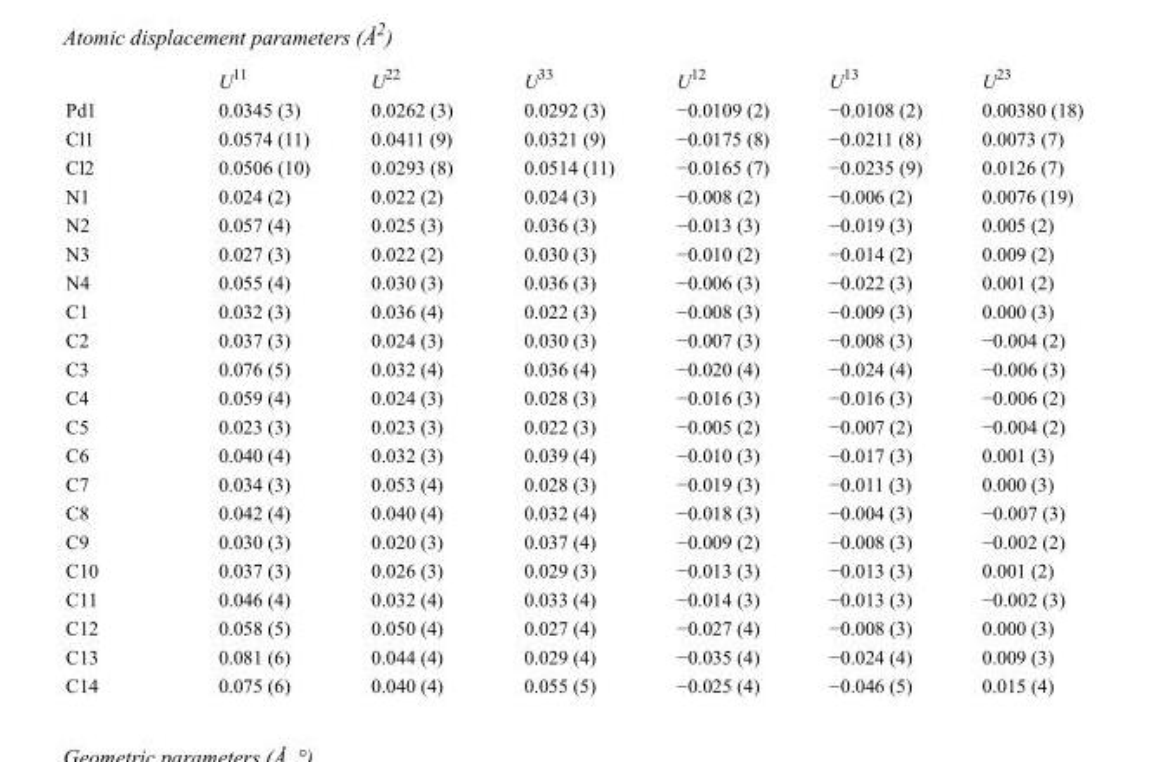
<table><thead><tr><td></td><td>U<sup>11</sup></td><td>U<sup>22</sup></td><td>U<sup>33</sup></td><td>U<sup>12</sup></td><td>U<sup>13</sup></td><td>U<sup>23</sup></td></tr></thead><tbody><tr><td>Pd1</td><td>0.0345 (3)</td><td>0.0262 (3)</td><td>0.0292 (3)</td><td>−0.0109 (2)</td><td>−0.0108 (2)</td><td>0.00380 (18)</td></tr><tr><td>Cl1</td><td>0.0574 (11)</td><td>0.0411 (9)</td><td>0.0321 (9)</td><td>−0.0175 (8)</td><td>−0.0211 (8)</td><td>0.0073 (7)</td></tr><tr><td>Cl2</td><td>0.0506 (10)</td><td>0.0293 (8)</td><td>0.0514 (11)</td><td>−0.0165 (7)</td><td>−0.0235 (9)</td><td>0.0126 (7)</td></tr><tr><td>N1</td><td>0.024 (2)</td><td>0.022 (2)</td><td>0.024 (3)</td><td>−0.008 (2)</td><td>−0.006 (2)</td><td>0.0076 (19)</td></tr><tr><td>N2</td><td>0.057 (4)</td><td>0.025 (3)</td><td>0.036 (3)</td><td>−0.013 (3)</td><td>−0.019 (3)</td><td>0.005 (2)</td></tr><tr><td>N3</td><td>0.027 (3)</td><td>0.022 (2)</td><td>0.030 (3)</td><td>−0.010 (2)</td><td>−0.014 (2)</td><td>0.009 (2)</td></tr><tr><td>N4</td><td>0.055 (4)</td><td>0.030 (3)</td><td>0.036 (3)</td><td>−0.006 (3)</td><td>−0.022 (3)</td><td>0.001 (2)</td></tr><tr><td>C1</td><td>0.032 (3)</td><td>0.036 (4)</td><td>0.022 (3)</td><td>−0.008 (3)</td><td>−0.009 (3)</td><td>0.000 (3)</td></tr><tr><td>C2</td><td>0.037 (3)</td><td>0.024 (3)</td><td>0.030 (3)</td><td>−0.007 (3)</td><td>−0.008 (3)</td><td>−0.004 (2)</td></tr><tr><td>C3</td><td>0.076 (5)</td><td>0.032 (4)</td><td>0.036 (4)</td><td>−0.020 (4)</td><td>−0.024 (4)</td><td>−0.006 (3)</td></tr><tr><td>C4</td><td>0.059 (4)</td><td>0.024 (3)</td><td>0.028 (3)</td><td>−0.016 (3)</td><td>−0.016 (3)</td><td>−0.006 (2)</td></tr><tr><td>C5</td><td>0.023 (3)</td><td>0.023 (3)</td><td>0.022 (3)</td><td>−0.005 (2)</td><td>−0.007 (2)</td><td>−0.004 (2)</td></tr><tr><td>C6</td><td>0.040 (4)</td><td>0.032 (3)</td><td>0.039 (4)</td><td>−0.010 (3)</td><td>−0.017 (3)</td><td>0.001 (3)</td></tr><tr><td>C7</td><td>0.034 (3)</td><td>0.053 (4)</td><td>0.028 (3)</td><td>−0.019 (3)</td><td>−0.011 (3)</td><td>0.000 (3)</td></tr><tr><td>C8</td><td>0.042 (4)</td><td>0.040 (4)</td><td>0.032 (4)</td><td>−0.018 (3)</td><td>−0.004 (3)</td><td>−0.007 (3)</td></tr><tr><td>C9</td><td>0.030 (3)</td><td>0.020 (3)</td><td>0.037 (4)</td><td>−0.009 (2)</td><td>−0.008 (3)</td><td>−0.002 (2)</td></tr><tr><td>C10</td><td>0.037 (3)</td><td>0.026 (3)</td><td>0.029 (3)</td><td>−0.013 (3)</td><td>−0.013 (3)</td><td>0.001 (2)</td></tr><tr><td>C11</td><td>0.046 (4)</td><td>0.032 (4)</td><td>0.033 (4)</td><td>−0.014 (3)</td><td>−0.013 (3)</td><td>−0.002 (3)</td></tr><tr><td>C12</td><td>0.058 (5)</td><td>0.050 (4)</td><td>0.027 (4)</td><td>−0.027 (4)</td><td>−0.008 (3)</td><td>0.000 (3)</td></tr><tr><td>C13</td><td>0.081 (6)</td><td>0.044 (4)</td><td>0.029 (4)</td><td>−0.035 (4)</td><td>−0.024 (4)</td><td>0.009 (3)</td></tr><tr><td>C14</td><td>0.075 (6)</td><td>0.040 (4)</td><td>0.055 (5)</td><td>−0.025 (4)</td><td>−0.046 (5)</td><td>0.015 (4)</td></tr></tbody></table>